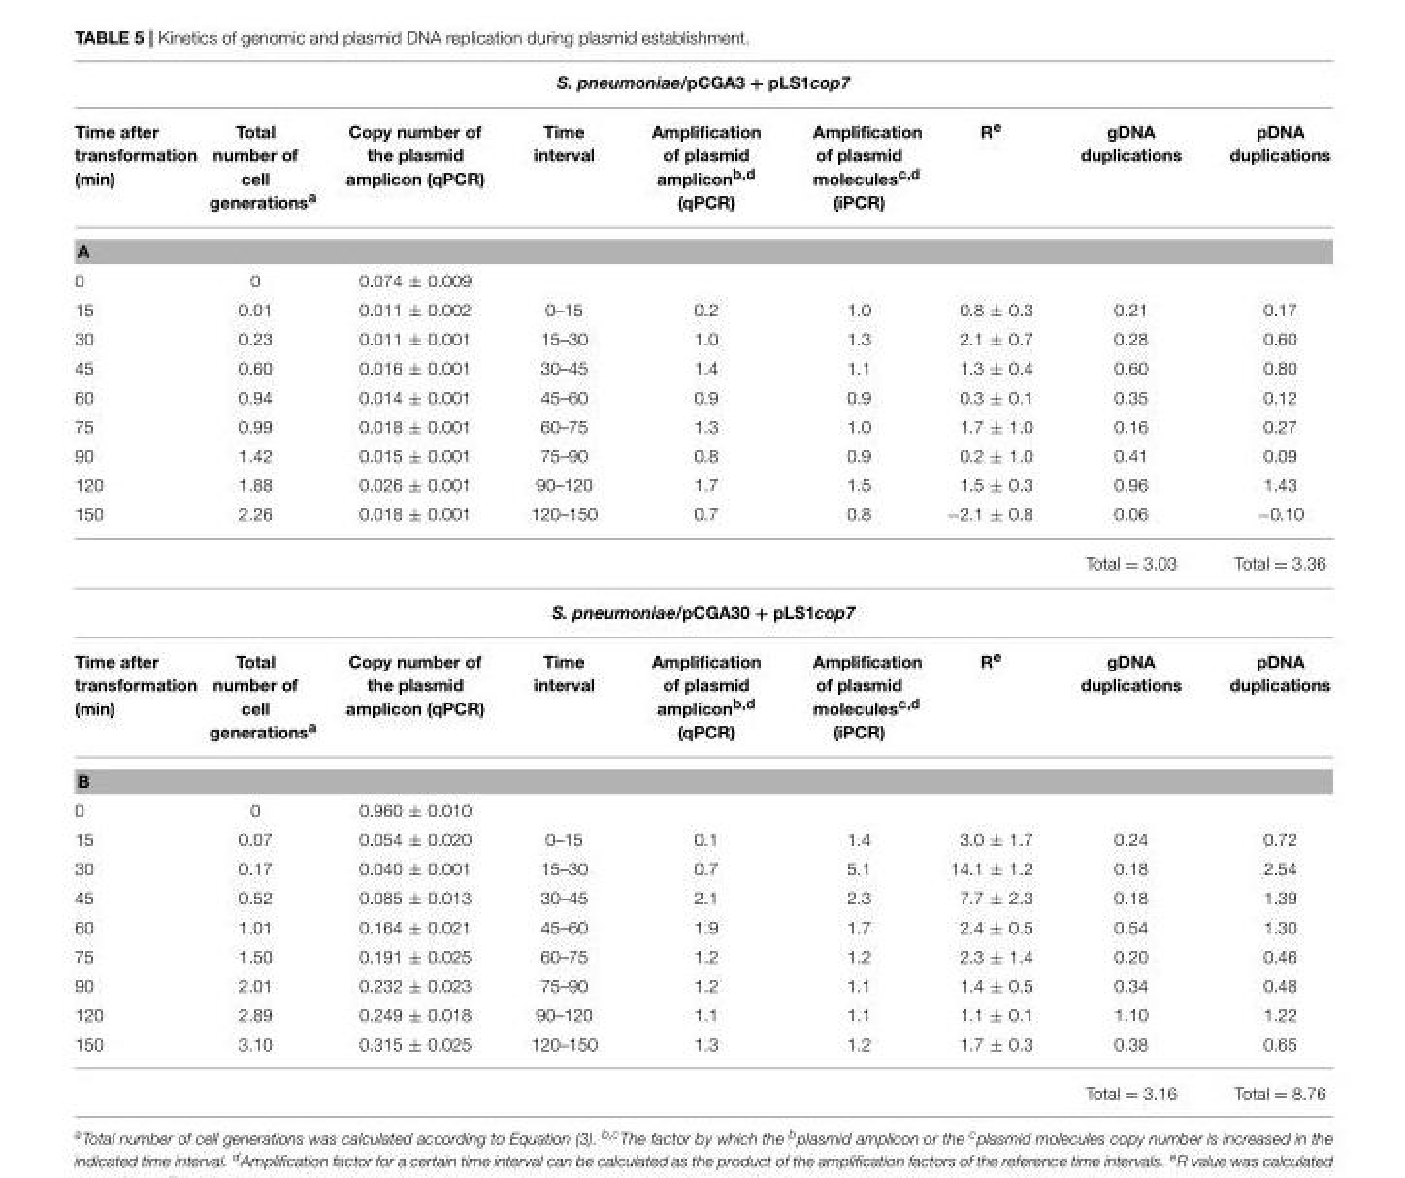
<table><thead><tr><td colspan="9">S. pneumoniae/pCGA3 + pLS1cop7</td></tr><tr><td>Time after transformation (min)</td><td>Total number of cell generations<sup>a</sup></td><td>Copy number of the plasmid amplicon (qPCR)</td><td>Time interval</td><td>Amplification of plasmid amplicon<sup>b,d</sup> (qPCR)</td><td>Amplification of plasmid molecules<sup>c,d</sup> (iPCR)</td><td>R<sup>e</sup></td><td>gDNA duplications</td><td>pDNA duplications</td></tr></thead><tbody><tr><td colspan="9">A</td></tr><tr><td>0</td><td>0</td><td>0.074 ± 0.009</td><td></td><td></td><td></td><td></td><td></td><td></td></tr><tr><td>15</td><td>0.01</td><td>0.011 ± 0.002</td><td>0–15</td><td>0.2</td><td>1.0</td><td>0.8 ± 0.3</td><td>0.21</td><td>0.17</td></tr><tr><td>30</td><td>0.23</td><td>0.011 ± 0.001</td><td>15–30</td><td>1.0</td><td>1.3</td><td>2.1 ± 0.7</td><td>0.28</td><td>0.60</td></tr><tr><td>45</td><td>0.60</td><td>0.016 ± 0.001</td><td>30–45</td><td>1.4</td><td>1.1</td><td>1.3 ± 0.4</td><td>0.60</td><td>0.80</td></tr><tr><td>60</td><td>0.94</td><td>0.014 ± 0.001</td><td>45–60</td><td>0.9</td><td>0.9</td><td>0.3 ± 0.1</td><td>0.35</td><td>0.12</td></tr><tr><td>75</td><td>0.99</td><td>0.018 ± 0.001</td><td>60–75</td><td>1.3</td><td>1.0</td><td>1.7 ± 1.0</td><td>0.16</td><td>0.27</td></tr><tr><td>90</td><td>1.42</td><td>0.015 ± 0.001</td><td>75–90</td><td>0.8</td><td>0.9</td><td>0.2 ± 1.0</td><td>0.41</td><td>0.09</td></tr><tr><td>120</td><td>1.88</td><td>0.026 ± 0.001</td><td>90–120</td><td>1.7</td><td>1.5</td><td>1.5 ± 0.3</td><td>0.96</td><td>1.43</td></tr><tr><td rowspan="2">150</td><td>2.26</td><td>0.018 ± 0.001</td><td>120–150</td><td>0.7</td><td>0.8</td><td>−2.1 ± 0.8</td><td>0.06</td><td>−0.10</td></tr><tr><td></td><td></td><td></td><td></td><td></td><td></td><td>Total = 3.03</td><td>Total = 3.36</td></tr><tr><td colspan="9">S. pneumoniae/pCGA30 + pLS1cop7</td></tr><tr><td>Time after transformation (min)</td><td>Total number of cell generations<sup>a</sup></td><td>Copy number of the plasmid amplicon (qPCR)</td><td>Time interval</td><td>Amplification of plasmid amplicon<sup>b,d</sup> (qPCR)</td><td>Amplification of plasmid molecules<sup>c,d</sup> (iPCR)</td><td>R<sup>e</sup></td><td>gDNA duplications</td><td>pDNA duplications</td></tr><tr><td colspan="9">B</td></tr><tr><td>0</td><td>0</td><td>0.960 ± 0.010</td><td></td><td></td><td></td><td></td><td></td><td></td></tr><tr><td>15</td><td>0.07</td><td>0.054 ± 0.020</td><td>0–15</td><td>0.1</td><td>1.4</td><td>3.0 ± 1.7</td><td>0.24</td><td>0.72</td></tr><tr><td>30</td><td>0.17</td><td>0.040 ± 0.001</td><td>15–30</td><td>0.7</td><td>5.1</td><td>14.1 ± 1.2</td><td>0.18</td><td>2.54</td></tr><tr><td>45</td><td>0.52</td><td>0.085 ± 0.013</td><td>30–45</td><td>2.1</td><td>2.3</td><td>7.7 ± 2.3</td><td>0.18</td><td>1.39</td></tr><tr><td>60</td><td>1.01</td><td>0.164 ± 0.021</td><td>45–60</td><td>1.9</td><td>1.7</td><td>2.4 ± 0.5</td><td>0.54</td><td>1.30</td></tr><tr><td>75</td><td>1.50</td><td>0.191 ± 0.025</td><td>60–75</td><td>1.2</td><td>1.2</td><td>2.3 ± 1.4</td><td>0.20</td><td>0.46</td></tr><tr><td>90</td><td>2.01</td><td>0.232 ± 0.023</td><td>75–90</td><td>1.2</td><td>1.1</td><td>1.4 ± 0.5</td><td>0.34</td><td>0.48</td></tr><tr><td>120</td><td>2.89</td><td>0.249 ± 0.018</td><td>90–120</td><td>1.1</td><td>1.1</td><td>1.1 ± 0.1</td><td>1.10</td><td>1.22</td></tr><tr><td rowspan="2">150</td><td>3.10</td><td>0.315 ± 0.025</td><td>120–150</td><td>1.3</td><td>1.2</td><td>1.7 ± 0.3</td><td>0.38</td><td>0.65</td></tr><tr><td></td><td></td><td></td><td></td><td></td><td></td><td>Total = 3.16</td><td>Total = 8.76</td></tr></tbody></table>